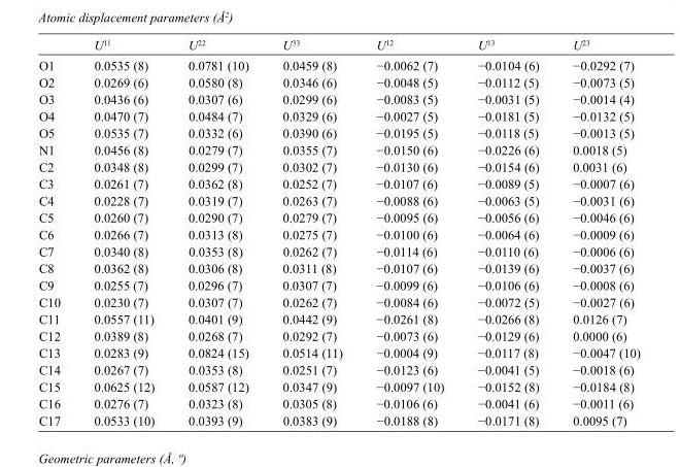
<table><thead><tr><td></td><td>U<sup>11</sup></td><td>U<sup>22</sup></td><td>U<sup>33</sup></td><td>U<sup>12</sup></td><td>U<sup>13</sup></td><td>U<sup>23</sup></td></tr></thead><tbody><tr><td>O1</td><td>0.0535 (8)</td><td>0.0781 (10)</td><td>0.0459 (8)</td><td>−0.0062 (7)</td><td>−0.0104 (6)</td><td>−0.0292 (7)</td></tr><tr><td>O2</td><td>0.0269 (6)</td><td>0.0580 (8)</td><td>0.0346 (6)</td><td>−0.0048 (5)</td><td>−0.0112 (5)</td><td>−0.0073 (5)</td></tr><tr><td>O3</td><td>0.0436 (6)</td><td>0.0307 (6)</td><td>0.0299 (6)</td><td>−0.0083 (5)</td><td>−0.0031 (5)</td><td>−0.0014 (4)</td></tr><tr><td>O4</td><td>0.0470 (7)</td><td>0.0484 (7)</td><td>0.0329 (6)</td><td>−0.0027 (5)</td><td>−0.0181 (5)</td><td>−0.0132 (5)</td></tr><tr><td>O5</td><td>0.0535 (7)</td><td>0.0332 (6)</td><td>0.0390 (6)</td><td>−0.0195 (5)</td><td>−0.0118 (5)</td><td>−0.0013 (5)</td></tr><tr><td>N1</td><td>0.0456 (8)</td><td>0.0279 (7)</td><td>0.0355 (7)</td><td>−0.0150 (6)</td><td>−0.0226 (6)</td><td>0.0018 (5)</td></tr><tr><td>C2</td><td>0.0348 (8)</td><td>0.0299 (7)</td><td>0.0302 (7)</td><td>−0.0130 (6)</td><td>−0.0154 (6)</td><td>0.0031 (6)</td></tr><tr><td>C3</td><td>0.0261 (7)</td><td>0.0362 (8)</td><td>0.0252 (7)</td><td>−0.0107 (6)</td><td>−0.0089 (5)</td><td>−0.0007 (6)</td></tr><tr><td>C4</td><td>0.0228 (7)</td><td>0.0319 (7)</td><td>0.0263 (7)</td><td>−0.0088 (6)</td><td>−0.0063 (5)</td><td>−0.0031 (6)</td></tr><tr><td>C5</td><td>0.0260 (7)</td><td>0.0290 (7)</td><td>0.0279 (7)</td><td>−0.0095 (6)</td><td>−0.0056 (6)</td><td>−0.0046 (6)</td></tr><tr><td>C6</td><td>0.0266 (7)</td><td>0.0313 (8)</td><td>0.0275 (7)</td><td>−0.0100 (6)</td><td>−0.0064 (6)</td><td>−0.0009 (6)</td></tr><tr><td>C7</td><td>0.0340 (8)</td><td>0.0353 (8)</td><td>0.0262 (7)</td><td>−0.0114 (6)</td><td>−0.0110 (6)</td><td>−0.0006 (6)</td></tr><tr><td>C8</td><td>0.0362 (8)</td><td>0.0306 (8)</td><td>0.0311 (8)</td><td>−0.0107 (6)</td><td>−0.0139 (6)</td><td>−0.0037 (6)</td></tr><tr><td>C9</td><td>0.0255 (7)</td><td>0.0296 (7)</td><td>0.0307 (7)</td><td>−0.0099 (6)</td><td>−0.0106 (6)</td><td>−0.0008 (6)</td></tr><tr><td>C10</td><td>0.0230 (7)</td><td>0.0307 (7)</td><td>0.0262 (7)</td><td>−0.0084 (6)</td><td>−0.0072 (5)</td><td>−0.0027 (6)</td></tr><tr><td>C11</td><td>0.0557 (11)</td><td>0.0401 (9)</td><td>0.0442 (9)</td><td>−0.0261 (8)</td><td>−0.0266 (8)</td><td>0.0126 (7)</td></tr><tr><td>C12</td><td>0.0389 (8)</td><td>0.0268 (7)</td><td>0.0292 (7)</td><td>−0.0073 (6)</td><td>−0.0129 (6)</td><td>0.0000 (6)</td></tr><tr><td>C13</td><td>0.0283 (9)</td><td>0.0824 (15)</td><td>0.0514 (11)</td><td>−0.0004 (9)</td><td>−0.0117 (8)</td><td>−0.0047 (10)</td></tr><tr><td>C14</td><td>0.0267 (7)</td><td>0.0353 (8)</td><td>0.0251 (7)</td><td>−0.0123 (6)</td><td>−0.0041 (5)</td><td>−0.0018 (6)</td></tr><tr><td>C15</td><td>0.0625 (12)</td><td>0.0587 (12)</td><td>0.0347 (9)</td><td>−0.0097 (10)</td><td>−0.0152 (8)</td><td>−0.0184 (8)</td></tr><tr><td>C16</td><td>0.0276 (7)</td><td>0.0323 (8)</td><td>0.0305 (8)</td><td>−0.0106 (6)</td><td>−0.0041 (6)</td><td>−0.0011 (6)</td></tr><tr><td>C17</td><td>0.0533 (10)</td><td>0.0393 (9)</td><td>0.0383 (9)</td><td>−0.0188 (8)</td><td>−0.0171 (8)</td><td>0.0095 (7)</td></tr></tbody></table>